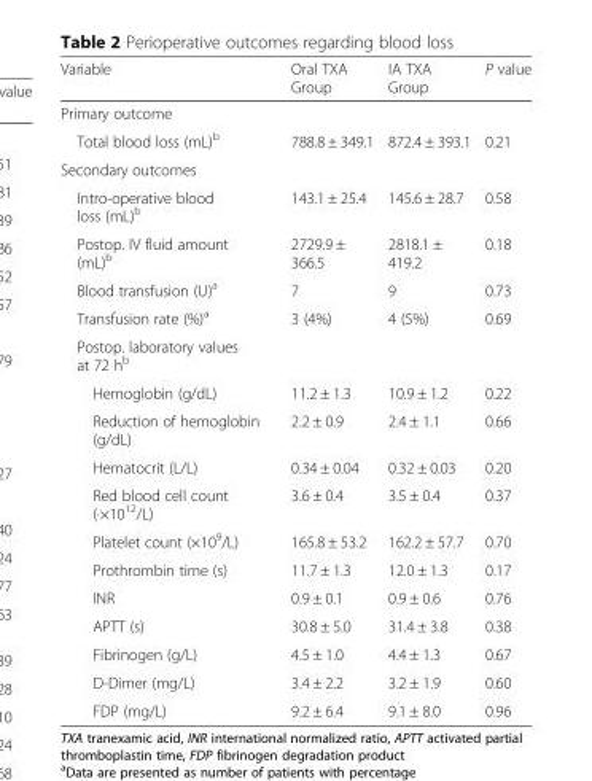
<table><thead><tr><td>Variable</td><td>Oral TXA Group</td><td>IA TXA Group</td><td>P value</td></tr></thead><tbody><tr><td colspan="4">Primary outcome</td></tr><tr><td>Total blood loss (mL)<sup>b</sup></td><td>788.8 ± 349.1</td><td>872.4 ± 393.1</td><td>0.21</td></tr><tr><td colspan="4">Secondary outcomes</td></tr><tr><td>Intro-operative blood loss (mL)<sup>b</sup></td><td>143.1 ± 25.4</td><td>145.6 ± 28.7</td><td>0.58</td></tr><tr><td>Postop. IV fluid amount (mL)<sup>b</sup></td><td>2729.9 ± 366.5</td><td>2818.1 ± 419.2</td><td>0.18</td></tr><tr><td>Blood transfusion (U)<sup>a</sup></td><td>7</td><td>9</td><td>0.73</td></tr><tr><td>Transfusion rate (%)<sup>a</sup></td><td>3 (4%)</td><td>4 (5%)</td><td>0.69</td></tr><tr><td colspan="4">Postop. laboratory values at 72 h<sup>b</sup></td></tr><tr><td>Hemoglobin (g/dL)</td><td>11.2 ± 1.3</td><td>10.9 ± 1.2</td><td>0.22</td></tr><tr><td>Reduction of hemoglobin (g/dL)</td><td>2.2 ± 0.9</td><td>2.4 ± 1.1</td><td>0.66</td></tr><tr><td>Hematocrit (L/L)</td><td>0.34 ± 0.04</td><td>0.32 ± 0.03</td><td>0.20</td></tr><tr><td>Red blood cell count (·×10<sup>12</sup>/L)</td><td>3.6 ± 0.4</td><td>3.5 ± 0.4</td><td>0.37</td></tr><tr><td>Platelet count (×10<sup>9</sup>/L)</td><td>165.8 ± 53.2</td><td>162.2 ± 57.7</td><td>0.70</td></tr><tr><td>Prothrombin time (s)</td><td>11.7 ± 1.3</td><td>12.0 ± 1.3</td><td>0.17</td></tr><tr><td>INR</td><td>0.9 ± 0.1</td><td>0.9 ± 0.6</td><td>0.76</td></tr><tr><td>APTT (s)</td><td>30.8 ± 5.0</td><td>31.4 ± 3.8</td><td>0.38</td></tr><tr><td>Fibrinogen (g/L)</td><td>4.5 ± 1.0</td><td>4.4 ± 1.3</td><td>0.67</td></tr><tr><td>D-Dimer (mg/L)</td><td>3.4 ± 2.2</td><td>3.2 ± 1.9</td><td>0.60</td></tr><tr><td>FDP (mg/L)</td><td>9.2 ± 6.4</td><td>9.1 ± 8.0</td><td>0.96</td></tr></tbody></table>